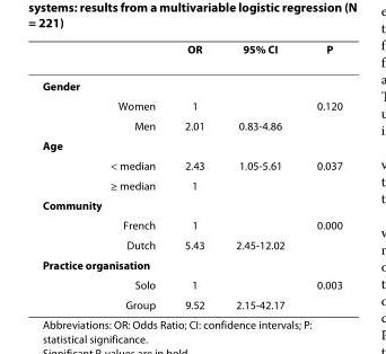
<table><thead><tr><td></td><td>OR</td><td>95% CI</td><td>P</td></tr></thead><tbody><tr><td colspan="4">Gender</td></tr><tr><td>Women</td><td>1</td><td></td><td>0.120</td></tr><tr><td>Men</td><td>2.01</td><td>0.83-4.86</td><td></td></tr><tr><td colspan="4">Age</td></tr><tr><td>&lt; median</td><td>2.43</td><td>1.05-5.61</td><td>0.037</td></tr><tr><td>≥ median</td><td>1</td><td></td><td></td></tr><tr><td colspan="4">Community</td></tr><tr><td>French</td><td>1</td><td></td><td>0.000</td></tr><tr><td>Dutch</td><td>5.43</td><td>2.45-12.02</td><td></td></tr><tr><td colspan="4">Practice organisation</td></tr><tr><td>Solo</td><td>1</td><td></td><td>0.003</td></tr><tr><td>Group</td><td>9.52</td><td>2.15-42.17</td><td></td></tr></tbody></table>